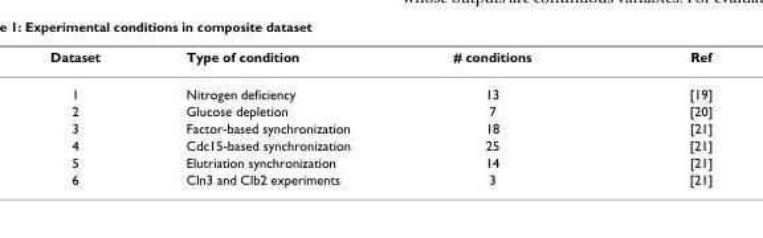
<table><thead><tr><td>Dataset</td><td>Type of condition</td><td># conditions</td><td>Ref</td></tr></thead><tbody><tr><td>1</td><td>Nitrogen deficiency</td><td>13</td><td>[19]</td></tr><tr><td>2</td><td>Glucose depletion</td><td>7</td><td>[20]</td></tr><tr><td>3</td><td>Factor-based synchronization</td><td>18</td><td>[21]</td></tr><tr><td>4</td><td>Cdc15-based synchronization</td><td>25</td><td>[21]</td></tr><tr><td>5</td><td>Elutriation synchronization</td><td>14</td><td>[21]</td></tr><tr><td>6</td><td>Cln3 and Clb2 experiments</td><td>3</td><td>[21]</td></tr></tbody></table>